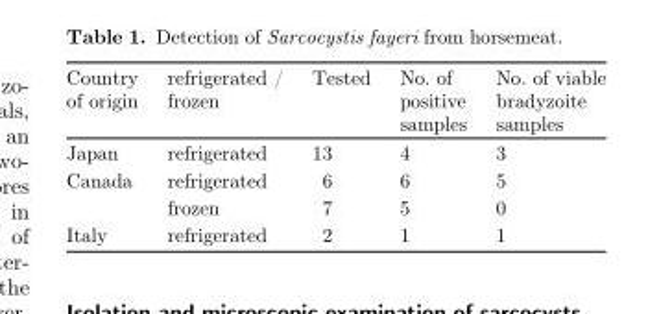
<table><thead><tr><td>Country of origin</td><td>refrigerated / frozen</td><td>Tested</td><td>No. of positive samples</td><td>No. of viable bradyzoite samples</td></tr></thead><tbody><tr><td>Japan</td><td>refrigerated</td><td>13</td><td>4</td><td>3</td></tr><tr><td rowspan="2">Canada</td><td>refrigerated</td><td>6</td><td>6</td><td>5</td></tr><tr><td>frozen</td><td>7</td><td>5</td><td>0</td></tr><tr><td>Italy</td><td>refrigerated</td><td>2</td><td>1</td><td>1</td></tr></tbody></table>